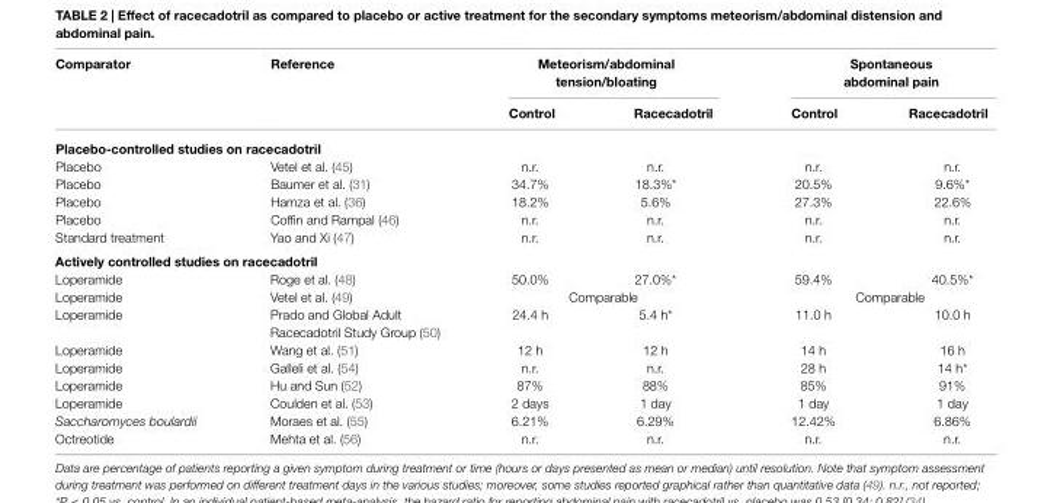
<table><thead><tr><td rowspan="2">Comparator</td><td rowspan="2">Reference</td><td colspan="2">Meteorism/abdominal tension/bloating</td><td colspan="2">Spontaneous abdominal pain</td></tr><tr><td>Control</td><td>Racecadotril</td><td>Control</td><td>Racecadotril</td></tr></thead><tbody><tr><td colspan="6">Placebo-controlled studies on racecadotril</td></tr><tr><td>Placebo</td><td>Vetel et al. (45)</td><td>n.r.</td><td>n.r.</td><td>n.r.</td><td>n.r.</td></tr><tr><td>Placebo</td><td>Baumer et al. (31)</td><td>34.7%</td><td>18.3%*</td><td>20.5%</td><td>9.6%*</td></tr><tr><td>Placebo</td><td>Hamza et al. (36)</td><td>18.2%</td><td>5.6%</td><td>27.3%</td><td>22.6%</td></tr><tr><td>Placebo</td><td>Coffin and Rampal (46)</td><td>n.r.</td><td>n.r.</td><td>n.r.</td><td>n.r.</td></tr><tr><td>Standard treatment</td><td>Yao and Xi (47)</td><td>n.r.</td><td>n.r.</td><td>n.r.</td><td>n.r.</td></tr><tr><td colspan="6">Actively controlled studies on racecadotril</td></tr><tr><td>Loperamide</td><td>Roge et al. (48)</td><td>50.0%</td><td>27.0%*</td><td>59.4%</td><td>40.5%*</td></tr><tr><td>Loperamide</td><td>Vetel et al. (49)</td><td colspan="2">Comparable</td><td colspan="2">Comparable</td></tr><tr><td>Loperamide</td><td>Prado and Global Adult Racecadotril Study Group (50)</td><td>24.4 h</td><td>5.4 h*</td><td>11.0 h</td><td>10.0 h</td></tr><tr><td>Loperamide</td><td>Wang et al. (51)</td><td>12 h</td><td>12 h</td><td>14 h</td><td>16 h</td></tr><tr><td>Loperamide</td><td>Galleli et al. (54)</td><td>n.r.</td><td>n.r.</td><td>28 h</td><td>14 h*</td></tr><tr><td>Loperamide</td><td>Hu and Sun (52)</td><td>87%</td><td>88%</td><td>85%</td><td>91%</td></tr><tr><td>Loperamide</td><td>Coulden et al. (53)</td><td>2 days</td><td>1 day</td><td>1 day</td><td>1 day</td></tr><tr><td>Saccharomyces boulardii</td><td>Moraes et al. (55)</td><td>6.21%</td><td>6.29%</td><td>12.42%</td><td>6.86%</td></tr><tr><td>Octreotide</td><td>Mehta et al. (56)</td><td>n.r.</td><td>n.r.</td><td>n.r.</td><td>n.r.</td></tr></tbody></table>